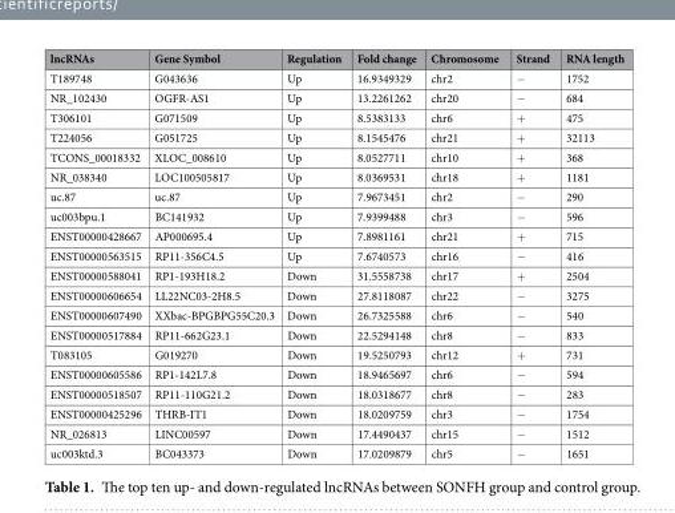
<table><thead><tr><td>lncRNAs</td><td>Gene Symbol</td><td>Regulation</td><td>Fold change</td><td>Chromosome</td><td>Strand</td><td>RNA length</td></tr></thead><tbody><tr><td>T189748</td><td>G043636</td><td>Up</td><td>16.9349329</td><td>chr2</td><td>−</td><td>1752</td></tr><tr><td>NR_102430</td><td>OGFR-AS1</td><td>Up</td><td>13.2261262</td><td>chr20</td><td>−</td><td>684</td></tr><tr><td>T306101</td><td>G071509</td><td>Up</td><td>8.5383133</td><td>chr6</td><td>+</td><td>475</td></tr><tr><td>T224056</td><td>G051725</td><td>Up</td><td>8.1545476</td><td>chr21</td><td>+</td><td>32113</td></tr><tr><td>TCONS_00018332</td><td>XLOC_008610</td><td>Up</td><td>8.0527711</td><td>chr10</td><td>+</td><td>368</td></tr><tr><td>NR_038340</td><td>LOC100505817</td><td>Up</td><td>8.0369531</td><td>chr18</td><td>+</td><td>1181</td></tr><tr><td>uc.87</td><td>uc.87</td><td>Up</td><td>7.9673451</td><td>chr2</td><td>−</td><td>290</td></tr><tr><td>uc003bpu.1</td><td>BC141932</td><td>Up</td><td>7.9399488</td><td>chr3</td><td>−</td><td>596</td></tr><tr><td>ENST00000428667</td><td>AP000695.4</td><td>Up</td><td>7.8981161</td><td>chr21</td><td>+</td><td>715</td></tr><tr><td>ENST00000563515</td><td>RP11-356C4.5</td><td>Up</td><td>7.6740573</td><td>chr16</td><td>−</td><td>416</td></tr><tr><td>ENST00000588041</td><td>RP1-193H18.2</td><td>Down</td><td>31.5558738</td><td>chr17</td><td>+</td><td>2504</td></tr><tr><td>ENST00000606654</td><td>LL22NC03-2H8.5</td><td>Down</td><td>27.8118087</td><td>chr22</td><td>−</td><td>3275</td></tr><tr><td>ENST00000607490</td><td>XXbac-BPGBPG55C20.3</td><td>Down</td><td>26.7325588</td><td>chr6</td><td>−</td><td>540</td></tr><tr><td>ENST00000517884</td><td>RP11-662G23.1</td><td>Down</td><td>22.5294148</td><td>chr8</td><td>−</td><td>833</td></tr><tr><td>T083105</td><td>G019270</td><td>Down</td><td>19.5250793</td><td>chr12</td><td>+</td><td>731</td></tr><tr><td>ENST00000605586</td><td>RP1-142L7.8</td><td>Down</td><td>18.9465697</td><td>chr6</td><td>−</td><td>594</td></tr><tr><td>ENST00000518507</td><td>RP11-110G21.2</td><td>Down</td><td>18.0318677</td><td>chr8</td><td>−</td><td>283</td></tr><tr><td>ENST00000425296</td><td>THRB-IT1</td><td>Down</td><td>18.0209759</td><td>chr3</td><td>−</td><td>1754</td></tr><tr><td>NR_026813</td><td>LINC00597</td><td>Down</td><td>17.4490437</td><td>chr15</td><td>−</td><td>1512</td></tr><tr><td>uc003ktd.3</td><td>BC043373</td><td>Down</td><td>17.0209879</td><td>chr5</td><td>−</td><td>1651</td></tr></tbody></table>